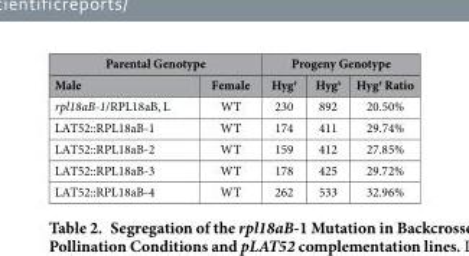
<table><thead><tr><td colspan="2">Parental Genotype</td><td colspan="3">Progeny Genotype</td></tr><tr><td>Male</td><td>Female</td><td>Hyg<sup>r</sup></td><td>Hyg<sup>s</sup></td><td>Hyg<sup>r</sup> Ratio</td></tr></thead><tbody><tr><td>rpl18aB-1/RPL18aB, L</td><td>WT</td><td>230</td><td>892</td><td>20.50%</td></tr><tr><td>LAT52::RPL18aB-1</td><td>WT</td><td>174</td><td>411</td><td>29.74%</td></tr><tr><td>LAT52::RPL18aB-2</td><td>WT</td><td>159</td><td>412</td><td>27.85%</td></tr><tr><td>LAT52::RPL18aB-3</td><td>WT</td><td>178</td><td>425</td><td>29.72%</td></tr><tr><td>LAT52::RPL18aB-4</td><td>WT</td><td>262</td><td>533</td><td>32.96%</td></tr></tbody></table>